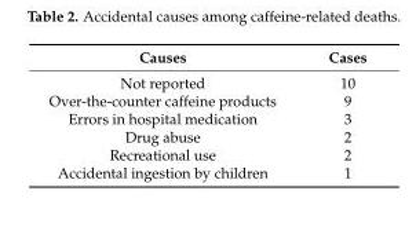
<table><thead><tr><td>Causes</td><td>Cases</td></tr></thead><tbody><tr><td>Not reported</td><td>10</td></tr><tr><td>Over-the-counter caffeine products</td><td>9</td></tr><tr><td>Errors in hospital medication</td><td>3</td></tr><tr><td>Drug abuse</td><td>2</td></tr><tr><td>Recreational use</td><td>2</td></tr><tr><td>Accidental ingestion by children</td><td>1</td></tr></tbody></table>